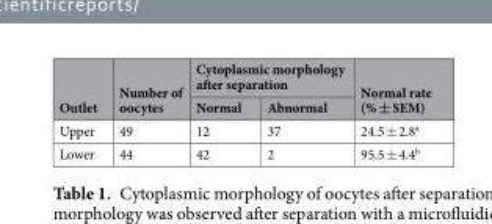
<table><thead><tr><td rowspan="2">Outlet</td><td rowspan="2">Number of oocytes</td><td colspan="2">Cytoplasmic morphology after separation</td><td rowspan="2">Normal rate (% ± SEM)</td></tr><tr><td>Normal</td><td>Abnormal</td></tr></thead><tbody><tr><td>Upper</td><td>49</td><td>12</td><td>37</td><td>24.5 ± 2.8<sup>a</sup></td></tr><tr><td>Lower</td><td>44</td><td>42</td><td>2</td><td>95.5 ± 4.4<sup>b</sup></td></tr></tbody></table>